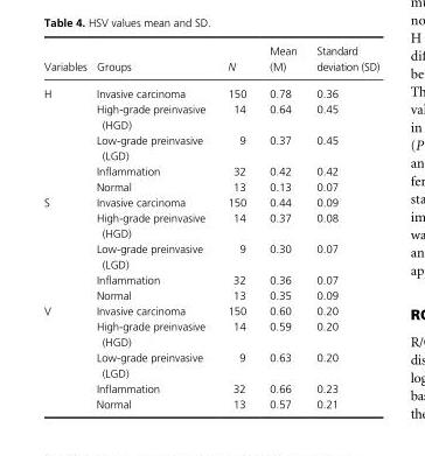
<table><thead><tr><td>Variables</td><td>Groups</td><td>N</td><td>Mean (M)</td><td>Standard deviation (SD)</td></tr></thead><tbody><tr><td rowspan="5">H</td><td>Invasive carcinoma</td><td>150</td><td>0.78</td><td>0.36</td></tr><tr><td>High- grade preinvasive (HGD)</td><td>14</td><td>0.64</td><td>0.45</td></tr><tr><td>Low- grade preinvasive (LGD)</td><td>9</td><td>0.37</td><td>0.45</td></tr><tr><td>Inflammation</td><td>32</td><td>0.42</td><td>0.42</td></tr><tr><td>Normal</td><td>13</td><td>0.13</td><td>0.07</td></tr><tr><td rowspan="5">S</td><td>Invasive carcinoma</td><td>150</td><td>0.44</td><td>0.09</td></tr><tr><td>High- grade preinvasive (HGD)</td><td>14</td><td>0.37</td><td>0.08</td></tr><tr><td>Low- grade preinvasive (LGD)</td><td>9</td><td>0.30</td><td>0.07</td></tr><tr><td>Inflammation</td><td>32</td><td>0.36</td><td>0.07</td></tr><tr><td>Normal</td><td>13</td><td>0.35</td><td>0.09</td></tr><tr><td rowspan="5">V</td><td>Invasive carcinoma</td><td>150</td><td>0.60</td><td>0.20</td></tr><tr><td>High- grade preinvasive (HGD)</td><td>14</td><td>0.59</td><td>0.20</td></tr><tr><td>Low- grade preinvasive (LGD)</td><td>9</td><td>0.63</td><td>0.20</td></tr><tr><td>Inflammation</td><td>32</td><td>0.66</td><td>0.23</td></tr><tr><td>Normal</td><td>13</td><td>0.57</td><td>0.21</td></tr></tbody></table>